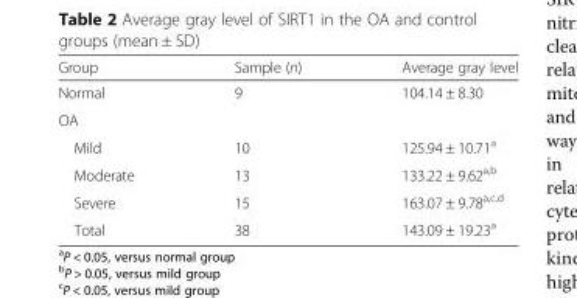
<table><thead><tr><td>Group</td><td>Sample (n)</td><td>Average gray level</td></tr></thead><tbody><tr><td>Normal</td><td>9</td><td>104.14 ± 8.30</td></tr><tr><td colspan="3">OA</td></tr><tr><td>Mild</td><td>10</td><td>125.94 ± 10.71<sup>a</sup></td></tr><tr><td>Moderate</td><td>13</td><td>133.22 ± 9.62<sup>a,b</sup></td></tr><tr><td>Severe</td><td>15</td><td>163.07 ± 9.78<sup>a,c,d</sup></td></tr><tr><td>Total</td><td>38</td><td>143.09 ± 19.23<sup>a</sup></td></tr></tbody></table>